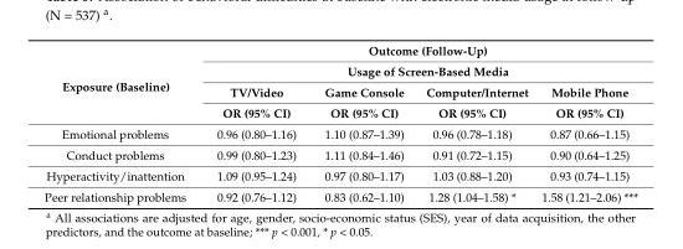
<table><thead><tr><td rowspan="4">Exposure (Baseline)</td><td rowspan="2" colspan="4">Outcome (Follow-Up) Usage of Screen-Based Media</td></tr><tr></tr><tr><td rowspan="2">TV/Video OR (95% CI)</td><td rowspan="2">Game Console OR (95% CI)</td><td rowspan="2">Computer/Internet OR (95% CI)</td><td rowspan="2">Mobile Phone OR (95% CI)</td></tr><tr></tr></thead><tbody><tr><td>Emotional problems</td><td>0.96 (0.80–1.16)</td><td>1.10 (0.87–1.39)</td><td>0.96 (0.78–1.18)</td><td>0.87 (0.66–1.15)</td></tr><tr><td>Conduct problems</td><td>0.99 (0.80–1.23)</td><td>1.11 (0.84–1.46)</td><td>0.91 (0.72–1.15)</td><td>0.90 (0.64–1.25)</td></tr><tr><td>Hyperactivity/inattention</td><td>1.09 (0.95–1.24)</td><td>0.97 (0.80–1.17)</td><td>1.03 (0.88–1.20)</td><td>0.93 (0.74–1.15)</td></tr><tr><td>Peer relationship problems</td><td>0.92 (0.76–1.12)</td><td>0.83 (0.62–1.10)</td><td>1.28 (1.04–1.58) *</td><td>1.58 (1.21–2.06) ***</td></tr></tbody></table>